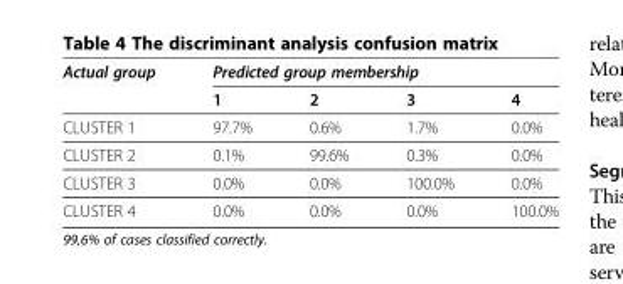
<table><thead><tr><td rowspan="2">Actual group</td><td colspan="4">Predicted group membership</td></tr><tr><td>1</td><td>2</td><td>3</td><td>4</td></tr></thead><tbody><tr><td>CLUSTER 1</td><td>97.7%</td><td>0.6%</td><td>1.7%</td><td>0.0%</td></tr><tr><td>CLUSTER 2</td><td>0.1%</td><td>99.6%</td><td>0.3%</td><td>0.0%</td></tr><tr><td>CLUSTER 3</td><td>0.0%</td><td>0.0%</td><td>100.0%</td><td>0.0%</td></tr><tr><td>CLUSTER 4</td><td>0.0%</td><td>0.0%</td><td>0.0%</td><td>100.0%</td></tr></tbody></table>